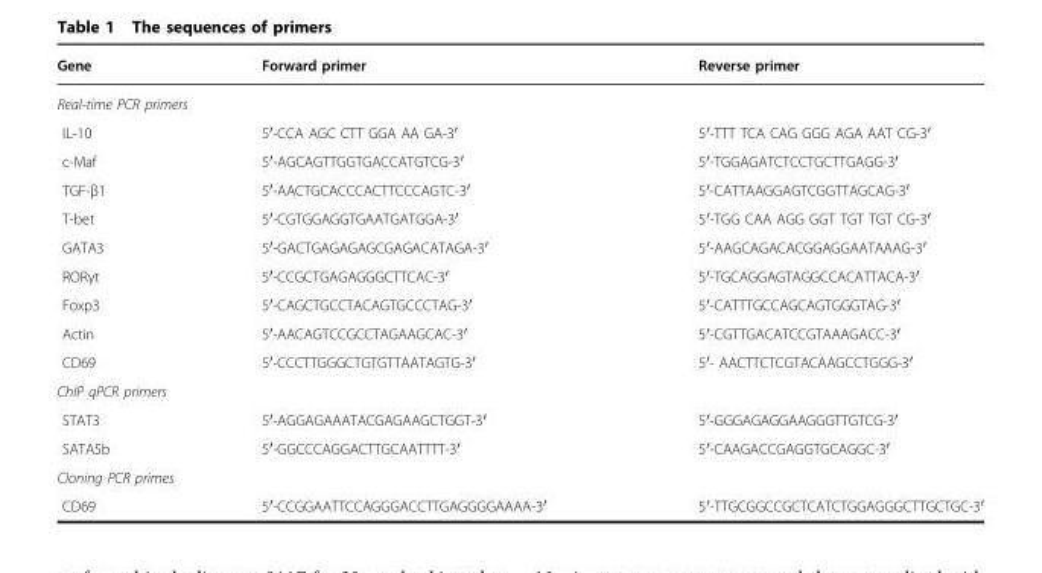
<table><thead><tr><td>Gene</td><td>Forward primer</td><td>Reverse primer</td></tr></thead><tbody><tr><td colspan="3">Real-time PCR primers</td></tr><tr><td>IL-10</td><td>5′-CCA AGC CTT GGA AA GA-3′</td><td>5′-TTT TCA CAG GGG AGA AAT CG-3′</td></tr><tr><td>c-Maf</td><td>5′-AGCAGTTGGTGACCATGTCG-3′</td><td>5′-TGGAGATCTCCTGCTTGAGG-3′</td></tr><tr><td>TGF-β1</td><td>5′-AACTGCACCCACTTCCCAGTC-3′</td><td>5′-CATTAAGGAGTCGGTTAGCAG-3′</td></tr><tr><td>T-bet</td><td>5′-CGTGGAGGTGAATGATGGA-3′</td><td>5′-TGG CAA AGG GGT TGT TGT CG-3′</td></tr><tr><td>GATA3</td><td>5′-GACTGAGAGAGCGAGACATAGA-3′</td><td>5′-AAGCAGACACGGAGGAATAAAG-3′</td></tr><tr><td>RORγt</td><td>5′-CCGCTGAGAGGGCTTCAC-3′</td><td>5′-TGCAGGAGTAGGCCACATTACA-3′</td></tr><tr><td>Foxp3</td><td>5′-CAGCTGCCTACAGTGCCCTAG-3′</td><td>5′-CATTTGCCAGCAGTGGGTAG-3′</td></tr><tr><td>Actin</td><td>5′-AACAGTCCGCCTAGAAGCAC-3′</td><td>5′-CGTTGACATCCGTAAAGACC-3′</td></tr><tr><td>CD69</td><td>5′-CCCTTGGGCTGTGTTAATAGTG-3′</td><td>5′- AACTTCTCGTACAAGCCTGGG-3′</td></tr><tr><td colspan="3">ChIP qPCR primers</td></tr><tr><td>STAT3</td><td>5′-AGGAGAAATACGAGAAGCTGGT-3′</td><td>5′-GGGAGAGGAAGGGTTGTCG-3′</td></tr><tr><td>SATA5b</td><td>5′-GGCCCAGGACTTGCAATTTT-3′</td><td>5′-CAAGACCGAGGTGCAGGC-3′</td></tr><tr><td colspan="3">Cloning PCR primes</td></tr><tr><td>CD69</td><td>5′-CCGGAATTCCAGGGACCTTGAGGGGAAAA-3′</td><td>5′-TTGCGGCCGCTCATCTGGAGGGCTTGCTGC-3′</td></tr></tbody></table>